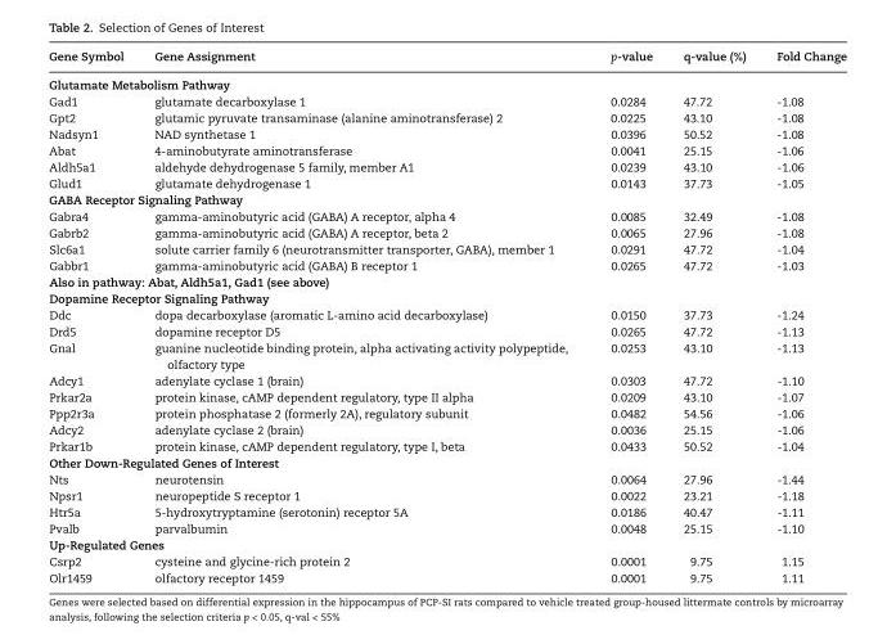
<table><thead><tr><td>Gene Symbol</td><td>Gene Assignment</td><td>p-value</td><td>q-value (%)</td><td>Fold Change</td></tr></thead><tbody><tr><td colspan="5">Glutamate Metabolism Pathway</td></tr><tr><td>Gad1</td><td>glutamate decarboxylase 1</td><td>0.0284</td><td>47.72</td><td>-1.08</td></tr><tr><td>Gpt2</td><td>glutamic pyruvate transaminase (alanine aminotransferase) 2</td><td>0.0225</td><td>43.10</td><td>-1.08</td></tr><tr><td>Nadsyn1</td><td>NAD synthetase 1</td><td>0.0396</td><td>50.52</td><td>-1.08</td></tr><tr><td>Abat</td><td>4-aminobutyrate aminotransferase</td><td>0.0041</td><td>25.15</td><td>-1.06</td></tr><tr><td>Aldh5a1</td><td>aldehyde dehydrogenase 5 family, member A1</td><td>0.0239</td><td>43.10</td><td>-1.06</td></tr><tr><td>Glud1</td><td>glutamate dehydrogenase 1</td><td>0.0143</td><td>37.73</td><td>-1.05</td></tr><tr><td colspan="5">GABA Receptor Signaling Pathway</td></tr><tr><td>Gabra4</td><td>gamma-aminobutyric acid (GABA) A receptor, alpha 4</td><td>0.0085</td><td>32.49</td><td>-1.08</td></tr><tr><td>Gabrb2</td><td>gamma-aminobutyric acid (GABA) A receptor, beta 2</td><td>0.0065</td><td>27.96</td><td>-1.08</td></tr><tr><td>Slc6a1</td><td>solute carrier family 6 (neurotransmitter transporter, GABA), member 1</td><td>0.0291</td><td>47.72</td><td>-1.04</td></tr><tr><td>Gabbr1</td><td>gamma-aminobutyric acid (GABA) B receptor 1</td><td>0.0265</td><td>47.72</td><td>-1.03</td></tr><tr><td colspan="5">Also in pathway: Abat, Aldh5a1, Gad1 (see above)</td></tr><tr><td colspan="5">Dopamine Receptor Signaling Pathway</td></tr><tr><td>Ddc</td><td>dopa decarboxylase (aromatic L-amino acid decarboxylase)</td><td>0.0150</td><td>37.73</td><td>-1.24</td></tr><tr><td>Drd5</td><td>dopamine receptor D5</td><td>0.0265</td><td>47.72</td><td>-1.13</td></tr><tr><td>Gnal</td><td>guanine nucleotide binding protein, alpha activating activity polypeptide, olfactory type</td><td>0.0253</td><td>43.10</td><td>-1.13</td></tr><tr><td>Adcy1</td><td>adenylate cyclase 1 (brain)</td><td>0.0303</td><td>47.72</td><td>-1.10</td></tr><tr><td>Prkar2a</td><td>protein kinase, cAMP dependent regulatory, type II alpha</td><td>0.0209</td><td>43.10</td><td>-1.07</td></tr><tr><td>Ppp2r3a</td><td>protein phosphatase 2 (formerly 2A), regulatory subunit</td><td>0.0482</td><td>54.56</td><td>-1.06</td></tr><tr><td>Adcy2</td><td>adenylate cyclase 2 (brain)</td><td>0.0036</td><td>25.15</td><td>-1.06</td></tr><tr><td>Prkar1b</td><td>protein kinase, cAMP dependent regulatory, type I, beta</td><td>0.0433</td><td>50.52</td><td>-1.04</td></tr><tr><td colspan="5">Other Down-Regulated Genes of Interest</td></tr><tr><td>Nts</td><td>neurotensin</td><td>0.0064</td><td>27.96</td><td>-1.44</td></tr><tr><td>Npsr1</td><td>neuropeptide S receptor 1</td><td>0.0022</td><td>23.21</td><td>-1.18</td></tr><tr><td>Htr5a</td><td>5-hydroxytryptamine (serotonin) receptor 5A</td><td>0.0186</td><td>40.47</td><td>-1.11</td></tr><tr><td>Pvalb</td><td>parvalbumin</td><td>0.0048</td><td>25.15</td><td>-1.10</td></tr><tr><td colspan="5">Up-Regulated Genes</td></tr><tr><td>Csrp2</td><td>cysteine and glycine-rich protein 2</td><td>0.0001</td><td>9.75</td><td>1.15</td></tr><tr><td>Olr1459</td><td>olfactory receptor 1459</td><td>0.0001</td><td>9.75</td><td>1.11</td></tr></tbody></table>